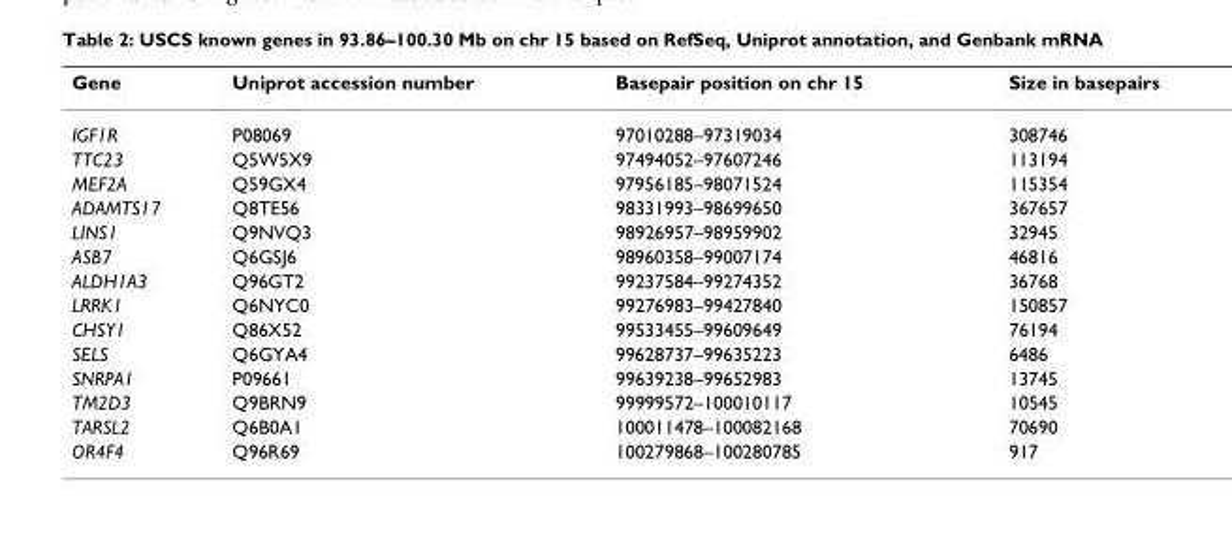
<table><thead><tr><td>Gene</td><td>Uniprot accession number</td><td>Basepair position on chr 15</td><td>Size in basepairs</td></tr></thead><tbody><tr><td>IGF1R</td><td>P08069</td><td>97010288–97319034</td><td>308746</td></tr><tr><td>TTC23</td><td>Q5W5X9</td><td>97494052–97607246</td><td>113194</td></tr><tr><td>MEF2A</td><td>Q59GX4</td><td>97956185–98071524</td><td>115354</td></tr><tr><td>ADAMTS17</td><td>Q8TE56</td><td>98331993–98699650</td><td>367657</td></tr><tr><td>LINS1</td><td>Q9NVQ3</td><td>98926957–98959902</td><td>32945</td></tr><tr><td>ASB7</td><td>Q6GSJ6</td><td>98960358–99007174</td><td>46816</td></tr><tr><td>ALDH1A3</td><td>Q96GT2</td><td>99237584–99274352</td><td>36768</td></tr><tr><td>LRRK1</td><td>Q6NYC0</td><td>99276983–99427840</td><td>150857</td></tr><tr><td>CHSY1</td><td>Q86X52</td><td>99533455–99609649</td><td>76194</td></tr><tr><td>SELS</td><td>Q6GYA4</td><td>99628737–99635223</td><td>6486</td></tr><tr><td>SNRPA1</td><td>P09661</td><td>99639238–99652983</td><td>13745</td></tr><tr><td>TM2D3</td><td>Q9BRN9</td><td>99999572–100010117</td><td>10545</td></tr><tr><td>TARSL2</td><td>Q6B0A1</td><td>100011478–100082168</td><td>70690</td></tr><tr><td>OR4F4</td><td>Q96R69</td><td>100279868–100280785</td><td>917</td></tr></tbody></table>